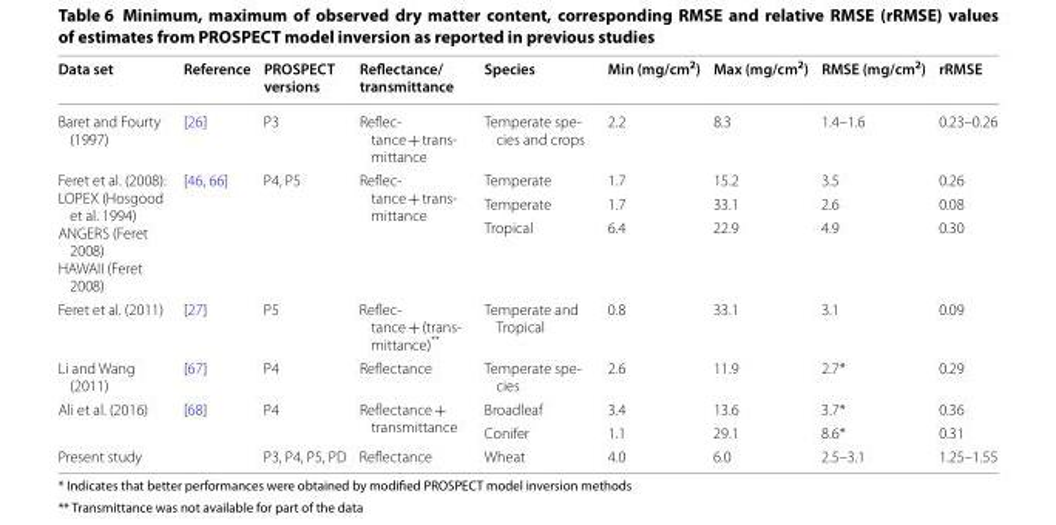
<table><thead><tr><td>Data set</td><td>Reference</td><td>PROSPECT versions</td><td>Reflectance/ transmittance</td><td>Species</td><td>Min (mg/cm<sup>2</sup>)</td><td>Max (mg/cm<sup>2</sup>)</td><td>RMSE (mg/cm<sup>2</sup>)</td><td>rRMSE</td></tr></thead><tbody><tr><td>Baret and Fourty (1997)</td><td>[26]</td><td>P3</td><td>Reflec- tance + trans- mittance</td><td>Temperate spe- cies and crops</td><td>2.2</td><td>8.3</td><td>1.4–1.6</td><td>0.23–0.26</td></tr><tr><td rowspan="3">Feret et al. (2008): LOPEX (Hosgood et al. 1994) ANGERS (Feret 2008) HAWAII (Feret 2008)</td><td rowspan="3">[46, 66]</td><td rowspan="3">P4, P5</td><td rowspan="3">Reflec- tance + trans- mittance</td><td>Temperate</td><td>1.7</td><td>15.2</td><td>3.5</td><td>0.26</td></tr><tr><td>Temperate</td><td>1.7</td><td>33.1</td><td>2.6</td><td>0.08</td></tr><tr><td>Tropical</td><td>6.4</td><td>22.9</td><td>4.9</td><td>0.30</td></tr><tr><td>Feret et al. (2011)</td><td>[27]</td><td>P5</td><td>Reflec- tance + (trans- mittance)**</td><td>Temperate and Tropical</td><td>0.8</td><td>33.1</td><td>3.1</td><td>0.09</td></tr><tr><td>Li and Wang (2011)</td><td>[67]</td><td>P4</td><td>Reflectance</td><td>Temperate spe- cies</td><td>2.6</td><td>11.9</td><td>2.7*</td><td>0.29</td></tr><tr><td rowspan="2">Ali et al. (2016)</td><td rowspan="2">[68]</td><td rowspan="2">P4</td><td rowspan="2">Reflectance + transmittance</td><td>Broadleaf</td><td>3.4</td><td>13.6</td><td>3.7*</td><td>0.36</td></tr><tr><td>Conifer</td><td>1.1</td><td>29.1</td><td>8.6*</td><td>0.31</td></tr><tr><td>Present study</td><td></td><td>P3, P4, P5, PD</td><td>Reflectance</td><td>Wheat</td><td>4.0</td><td>6.0</td><td>2.5–3.1</td><td>1.25–1.55</td></tr></tbody></table>